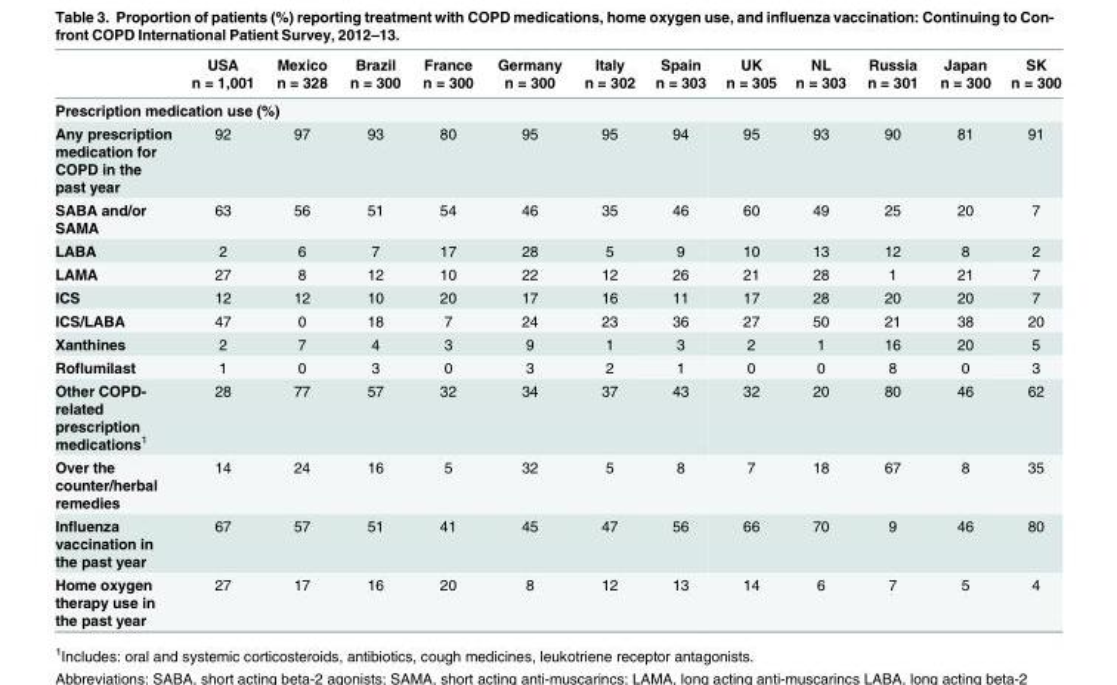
<table><thead><tr><td></td><td>USA n = 1,001</td><td>Mexico n = 328</td><td>Brazil n = 300</td><td>France n = 300</td><td>Germany n = 300</td><td>Italy n = 302</td><td>Spain n = 303</td><td>UK n = 305</td><td>NL n = 303</td><td>Russia n = 301</td><td>Japan n = 300</td><td>SK n = 300</td></tr></thead><tbody><tr><td colspan="13">Prescription medication use (%)</td></tr><tr><td>Any prescription medication for COPD in the past year</td><td>92</td><td>97</td><td>93</td><td>80</td><td>95</td><td>95</td><td>94</td><td>95</td><td>93</td><td>90</td><td>81</td><td>91</td></tr><tr><td>SABA and/or SAMA</td><td>63</td><td>56</td><td>51</td><td>54</td><td>46</td><td>35</td><td>46</td><td>60</td><td>49</td><td>25</td><td>20</td><td>7</td></tr><tr><td>LABA</td><td>2</td><td>6</td><td>7</td><td>17</td><td>28</td><td>5</td><td>9</td><td>10</td><td>13</td><td>12</td><td>8</td><td>2</td></tr><tr><td>LAMA</td><td>27</td><td>8</td><td>12</td><td>10</td><td>22</td><td>12</td><td>26</td><td>21</td><td>28</td><td>1</td><td>21</td><td>7</td></tr><tr><td>ICS</td><td>12</td><td>12</td><td>10</td><td>20</td><td>17</td><td>16</td><td>11</td><td>17</td><td>28</td><td>20</td><td>20</td><td>7</td></tr><tr><td>ICS/LABA</td><td>47</td><td>0</td><td>18</td><td>7</td><td>24</td><td>23</td><td>36</td><td>27</td><td>50</td><td>21</td><td>38</td><td>20</td></tr><tr><td>Xanthines</td><td>2</td><td>7</td><td>4</td><td>3</td><td>9</td><td>1</td><td>3</td><td>2</td><td>1</td><td>16</td><td>20</td><td>5</td></tr><tr><td>Roflumilast</td><td>1</td><td>0</td><td>3</td><td>0</td><td>3</td><td>2</td><td>1</td><td>0</td><td>0</td><td>8</td><td>0</td><td>3</td></tr><tr><td>Other COPD- related prescription medications<sup>1</sup></td><td>28</td><td>77</td><td>57</td><td>32</td><td>34</td><td>37</td><td>43</td><td>32</td><td>20</td><td>80</td><td>46</td><td>62</td></tr><tr><td>Over the counter/herbal remedies</td><td>14</td><td>24</td><td>16</td><td>5</td><td>32</td><td>5</td><td>8</td><td>7</td><td>18</td><td>67</td><td>8</td><td>35</td></tr><tr><td>Influenza vaccination in the past year</td><td>67</td><td>57</td><td>51</td><td>41</td><td>45</td><td>47</td><td>56</td><td>66</td><td>70</td><td>9</td><td>46</td><td>80</td></tr><tr><td>Home oxygen therapy use in the past year</td><td>27</td><td>17</td><td>16</td><td>20</td><td>8</td><td>12</td><td>13</td><td>14</td><td>6</td><td>7</td><td>5</td><td>4</td></tr></tbody></table>